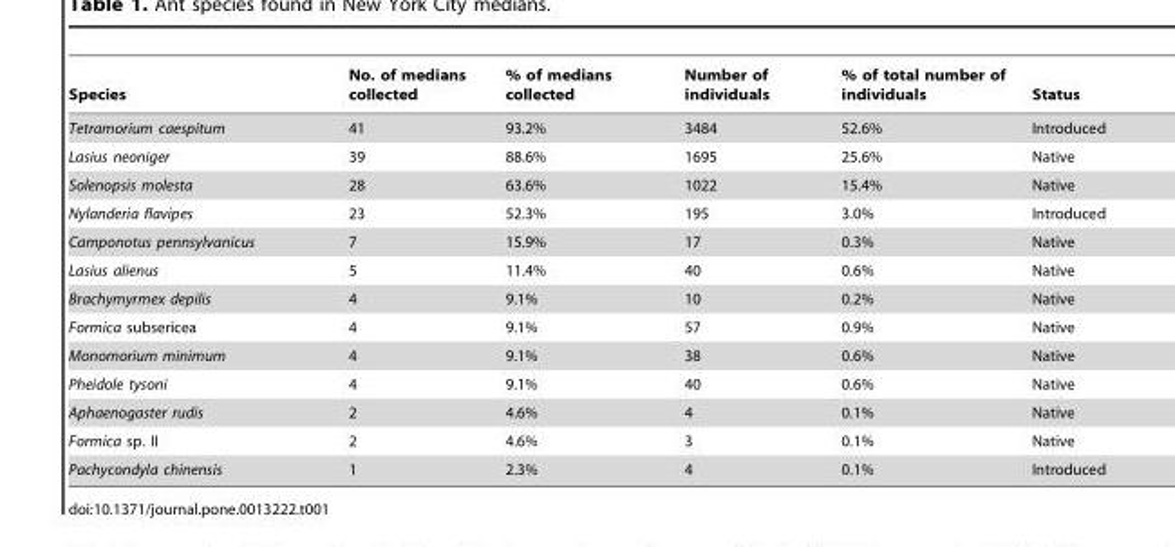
<table><thead><tr><td>Species</td><td>No. of medians collected</td><td>% of medians collected</td><td>Number of individuals</td><td>% of total number of individuals</td><td>Status</td></tr></thead><tbody><tr><td>Tetramorium caespitum</td><td>41</td><td>93.2%</td><td>3484</td><td>52.6%</td><td>Introduced</td></tr><tr><td>Lasius neoniger</td><td>39</td><td>88.6%</td><td>1695</td><td>25.6%</td><td>Native</td></tr><tr><td>Solenopsis molesta</td><td>28</td><td>63.6%</td><td>1022</td><td>15.4%</td><td>Native</td></tr><tr><td>Nylanderia flavipes</td><td>23</td><td>52.3%</td><td>195</td><td>3.0%</td><td>Introduced</td></tr><tr><td>Camponotus pennsylvanicus</td><td>7</td><td>15.9%</td><td>17</td><td>0.3%</td><td>Native</td></tr><tr><td>Lasius alienus</td><td>5</td><td>11.4%</td><td>40</td><td>0.6%</td><td>Native</td></tr><tr><td>Brachymyrmex depilis</td><td>4</td><td>9.1%</td><td>10</td><td>0.2%</td><td>Native</td></tr><tr><td>Formica subsericea</td><td>4</td><td>9.1%</td><td>57</td><td>0.9%</td><td>Native</td></tr><tr><td>Monomorium minimum</td><td>4</td><td>9.1%</td><td>38</td><td>0.6%</td><td>Native</td></tr><tr><td>Pheidole tysoni</td><td>4</td><td>9.1%</td><td>40</td><td>0.6%</td><td>Native</td></tr><tr><td>Aphaenogaster rudis</td><td>2</td><td>4.6%</td><td>4</td><td>0.1%</td><td>Native</td></tr><tr><td>Formica sp. II</td><td>2</td><td>4.6%</td><td>3</td><td>0.1%</td><td>Native</td></tr><tr><td>Pachycondyla chinensis</td><td>1</td><td>2.3%</td><td>4</td><td>0.1%</td><td>Introduced</td></tr></tbody></table>